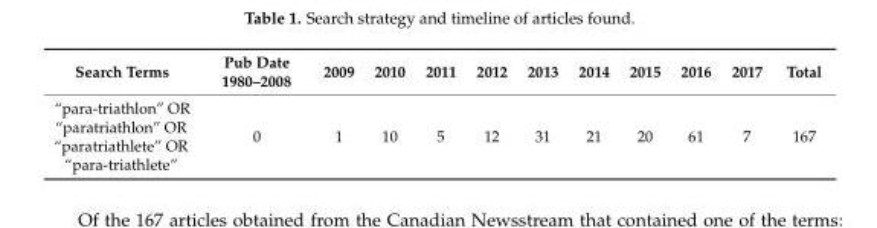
<table><thead><tr><td>Search Terms</td><td>Pub Date 1980–2008</td><td>2009</td><td>2010</td><td>2011</td><td>2012</td><td>2013</td><td>2014</td><td>2015</td><td>2016</td><td>2017</td><td>Total</td></tr></thead><tbody><tr><td>“para-triathlon” OR “paratriathlon” OR “paratriathlete” OR “para-triathlete”</td><td>0</td><td>1</td><td>10</td><td>5</td><td>12</td><td>31</td><td>21</td><td>20</td><td>61</td><td>7</td><td>167</td></tr></tbody></table>